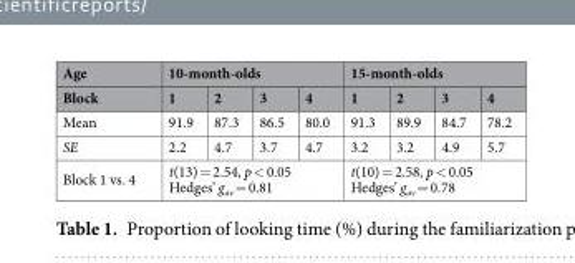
<table><thead><tr><td rowspan="2">Age Block</td><td colspan="4">10-month-olds</td><td colspan="4">15-month-olds</td></tr><tr><td>1</td><td>2</td><td>3</td><td>4</td><td>1</td><td>2</td><td>3</td><td>4</td></tr></thead><tbody><tr><td>Mean</td><td>91.9</td><td>87.3</td><td>86.5</td><td>80.0</td><td>91.3</td><td>89.9</td><td>84.7</td><td>78.2</td></tr><tr><td>SE</td><td>2.2</td><td>4.7</td><td>3.7</td><td>4.7</td><td>3.2</td><td>3.2</td><td>4.9</td><td>5.7</td></tr><tr><td>Block 1 vs. 4</td><td colspan="4">t(13) = 2.54, p &lt; 0.05 Hedges’ g<sub>av</sub> = 0.81</td><td colspan="4">t(10) = 2.58, p &lt; 0.05 Hedges’ g<sub>av</sub> = 0.78</td></tr></tbody></table>